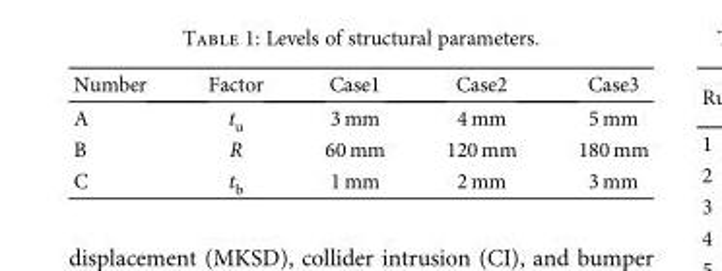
<table><thead><tr><td>Number</td><td>Factor</td><td>Case1</td><td>Case2</td><td>Case3</td></tr></thead><tbody><tr><td>A</td><td>t<sub>u</sub></td><td>3 mm</td><td>4 mm</td><td>5 mm</td></tr><tr><td>B</td><td>R</td><td>60 mm</td><td>120 mm</td><td>180 mm</td></tr><tr><td>C</td><td>t<sub>b</sub></td><td>1 mm</td><td>2 mm</td><td>3 mm</td></tr></tbody></table>